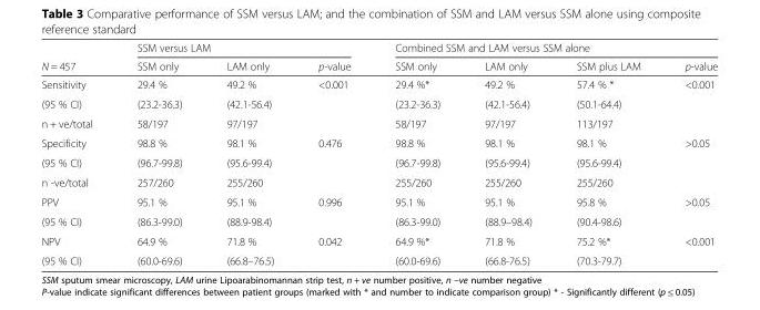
<table><thead><tr><td rowspan="2">N = 457</td><td colspan="3">SSM versus LAM</td><td colspan="4">Combined SSM and LAM versus SSM alone</td></tr><tr><td>SSM only</td><td>LAM only</td><td>p-value</td><td>SSM only</td><td>LAM only</td><td>SSM plus LAM</td><td>p-value</td></tr></thead><tbody><tr><td>Sensitivity</td><td>29.4 %</td><td>49.2 %</td><td>&lt;0.001</td><td>29.4 %*</td><td>49.2 %</td><td>57.4 % *</td><td>&lt;0.001</td></tr><tr><td>(95 % CI)</td><td>(23.2-36.3)</td><td>(42.1-56.4)</td><td></td><td>(23.2-36.3)</td><td>(42.1-56.4)</td><td>(50.1-64.4)</td><td></td></tr><tr><td>n + ve/total</td><td>58/197</td><td>97/197</td><td></td><td>58/197</td><td>97/197</td><td>113/197</td><td></td></tr><tr><td>Specificity</td><td>98.8 %</td><td>98.1 %</td><td>0.476</td><td>98.8 %</td><td>98.1 %</td><td>98.1 %</td><td>&gt;0.05</td></tr><tr><td>(95 % CI)</td><td>(96.7-99.8)</td><td>(95.6-99.4)</td><td></td><td>(96.7-99.8)</td><td>(95.6-99.4)</td><td>(95.6-99.4)</td><td></td></tr><tr><td>n -ve/total</td><td>257/260</td><td>255/260</td><td></td><td>255/260</td><td>255/260</td><td>255/260</td><td></td></tr><tr><td>PPV</td><td>95.1 %</td><td>95.1 %</td><td>0.996</td><td>95.1 %</td><td>95.1 %</td><td>95.8 %</td><td>&gt;0.05</td></tr><tr><td>(95 % CI)</td><td>(86.3-99.0)</td><td>(88.9-98.4)</td><td></td><td>(86.3-99.0)</td><td>(88.9–98.4)</td><td>(90.4-98.6)</td><td></td></tr><tr><td>NPV</td><td>64.9 %</td><td>71.8 %</td><td>0.042</td><td>64.9 %*</td><td>71.8 %</td><td>75.2 %*</td><td>&lt;0.001</td></tr><tr><td>(95 % CI)</td><td>(60.0-69.6)</td><td>(66.8–76.5)</td><td></td><td>(60.0-69.6)</td><td>(66.8-76.5)</td><td>(70.3-79.7)</td><td></td></tr></tbody></table>